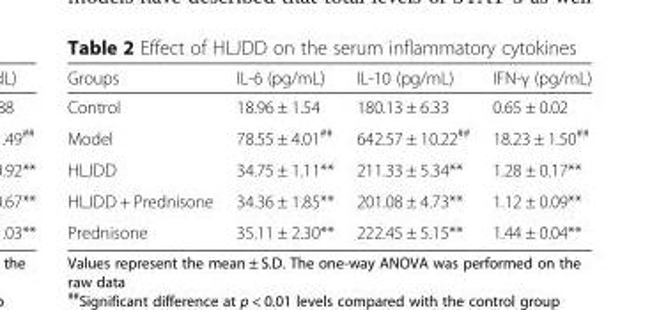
<table><thead><tr><td>Groups</td><td>IL-6 (pg/mL)</td><td>IL-10 (pg/mL)</td><td>IFN-γ (pg/mL)</td></tr></thead><tbody><tr><td>Control</td><td>18.96 ± 1.54</td><td>180.13 ± 6.33</td><td>0.65 ± 0.02</td></tr><tr><td>Model</td><td>78.55 ± 4.01<sup>##</sup></td><td>642.57 ± 10.22<sup>##</sup></td><td>18.23 ± 1.50<sup>##</sup></td></tr><tr><td>HLJDD</td><td>34.75 ± 1.11**</td><td>211.33 ± 5.34**</td><td>1.28 ± 0.17**</td></tr><tr><td>HLJDD + Prednisone</td><td>34.36 ± 1.85**</td><td>201.08 ± 4.73**</td><td>1.12 ± 0.09**</td></tr><tr><td>Prednisone</td><td>35.11 ± 2.30**</td><td>222.45 ± 5.15**</td><td>1.44 ± 0.04**</td></tr></tbody></table>